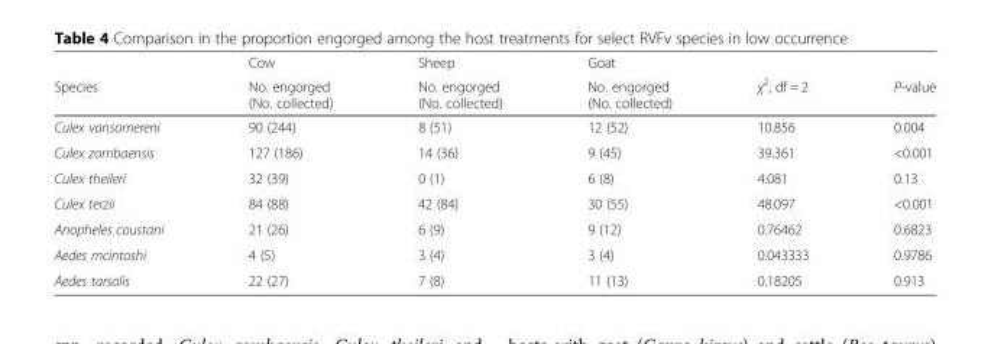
<table><thead><tr><td rowspan="2">Species</td><td rowspan="2">Cow No. engorged (No. collected)</td><td rowspan="2">Sheep No. engorged (No. collected)</td><td rowspan="2">Goat No. engorged (No. collected)</td><td rowspan="2">χ<sup>2</sup>, df = 2</td><td rowspan="2">P-value</td></tr><tr></tr></thead><tbody><tr><td>Culex vansomereni</td><td>90 (244)</td><td>8 (51)</td><td>12 (52)</td><td>10.856</td><td>0.004</td></tr><tr><td>Culex zombaensis</td><td>127 (186)</td><td>14 (36)</td><td>9 (45)</td><td>39.361</td><td>&lt;0.001</td></tr><tr><td>Culex theileri</td><td>32 (39)</td><td>0 (1)</td><td>6 (8)</td><td>4.081</td><td>0.13</td></tr><tr><td>Culex terzii</td><td>84 (88)</td><td>42 (84)</td><td>30 (55)</td><td>48.097</td><td>&lt;0.001</td></tr><tr><td>Anopheles coustani</td><td>21 (26)</td><td>6 (9)</td><td>9 (12)</td><td>0.76462</td><td>0.6823</td></tr><tr><td>Aedes mcintoshi</td><td>4 (5)</td><td>3 (4)</td><td>3 (4)</td><td>0.043333</td><td>0.9786</td></tr><tr><td>Aedes tarsalis</td><td>22 (27)</td><td>7 (8)</td><td>11 (13)</td><td>0.18205</td><td>0.913</td></tr></tbody></table>